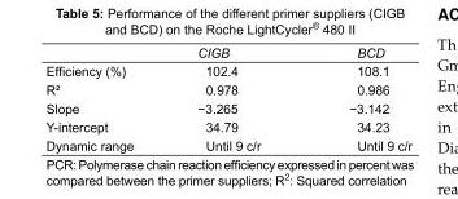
<table><thead><tr><td></td><td>CIGB</td><td>BCD</td></tr></thead><tbody><tr><td>Efficiency (%)</td><td>102.4</td><td>108.1</td></tr><tr><td>R²</td><td>0.978</td><td>0.986</td></tr><tr><td>Slope</td><td>−3.265</td><td>−3.142</td></tr><tr><td>Y-intercept</td><td>34.79</td><td>34.23</td></tr><tr><td>Dynamic range</td><td>Until 9 c/r</td><td>Until 9 c/r</td></tr></tbody></table>